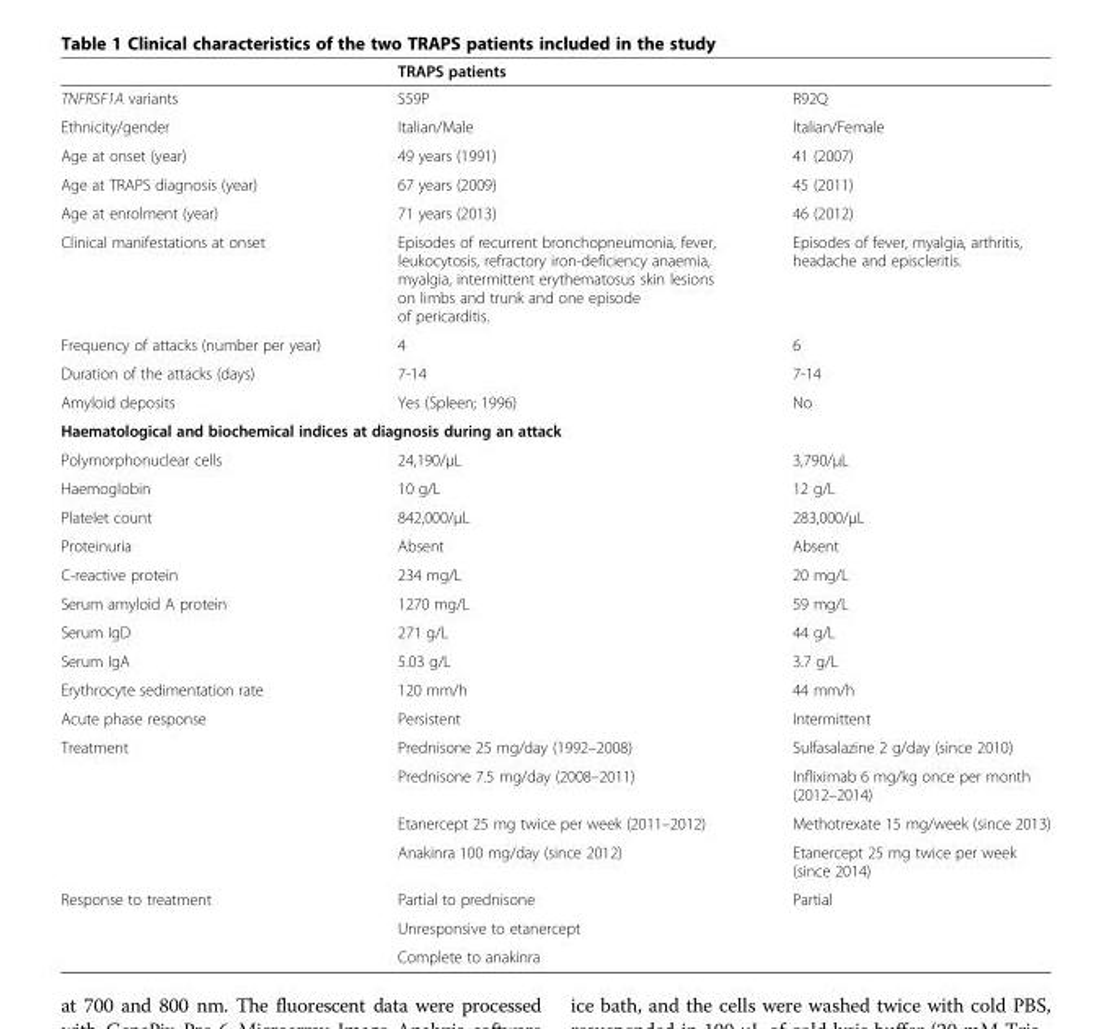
<table><thead><tr><td rowspan="2">TNFRSF1A variants</td><td colspan="2">TRAPS patients</td></tr><tr><td>S59P</td><td>R92Q</td></tr></thead><tbody><tr><td>Ethnicity/gender</td><td>Italian/Male</td><td>Italian/Female</td></tr><tr><td>Age at onset (year)</td><td>49 years (1991)</td><td>41 (2007)</td></tr><tr><td>Age at TRAPS diagnosis (year)</td><td>67 years (2009)</td><td>45 (2011)</td></tr><tr><td>Age at enrolment (year)</td><td>71 years (2013)</td><td>46 (2012)</td></tr><tr><td>Clinical manifestations at onset</td><td>Episodes of recurrent bronchopneumonia, fever, leukocytosis, refractory iron-deficiency anaemia, myalgia, intermittent erythematosus skin lesions on limbs and trunk and one episode of pericarditis.</td><td>Episodes of fever, myalgia, arthritis, headache and episcleritis.</td></tr><tr><td>Frequency of attacks (number per year)</td><td>4</td><td>6</td></tr><tr><td>Duration of the attacks (days)</td><td>7-14</td><td>7-14</td></tr><tr><td>Amyloid deposits</td><td>Yes (Spleen; 1996)</td><td>No</td></tr><tr><td colspan="3">Haematological and biochemical indices at diagnosis during an attack</td></tr><tr><td>Polymorphonuclear cells</td><td>24,190/μL</td><td>3,790/μL</td></tr><tr><td>Haemoglobin</td><td>10 g/L</td><td>12 g/L</td></tr><tr><td>Platelet count</td><td>842,000/μL</td><td>283,000/μL</td></tr><tr><td>Proteinuria</td><td>Absent</td><td>Absent</td></tr><tr><td>C-reactive protein</td><td>234 mg/L</td><td>20 mg/L</td></tr><tr><td>Serum amyloid A protein</td><td>1270 mg/L</td><td>59 mg/L</td></tr><tr><td>Serum IgD</td><td>271 g/L</td><td>44 g/L</td></tr><tr><td>Serum IgA</td><td>5.03 g/L</td><td>3.7 g/L</td></tr><tr><td>Erythrocyte sedimentation rate</td><td>120 mm/h</td><td>44 mm/h</td></tr><tr><td>Acute phase response</td><td>Persistent</td><td>Intermittent</td></tr><tr><td rowspan="4">Treatment</td><td>Prednisone 25 mg/day (1992–2008)</td><td>Sulfasalazine 2 g/day (since 2010)</td></tr><tr><td>Prednisone 7.5 mg/day (2008–2011)</td><td>Infliximab 6 mg/kg once per month (2012–2014)</td></tr><tr><td>Etanercept 25 mg twice per week (2011–2012)</td><td>Methotrexate 15 mg/week (since 2013)</td></tr><tr><td>Anakinra 100 mg/day (since 2012)</td><td>Etanercept 25 mg twice per week (since 2014)</td></tr><tr><td rowspan="3">Response to treatment</td><td>Partial to prednisone</td><td rowspan="3">Partial</td></tr><tr><td>Unresponsive to etanercept</td></tr><tr><td>Complete to anakinra</td></tr></tbody></table>